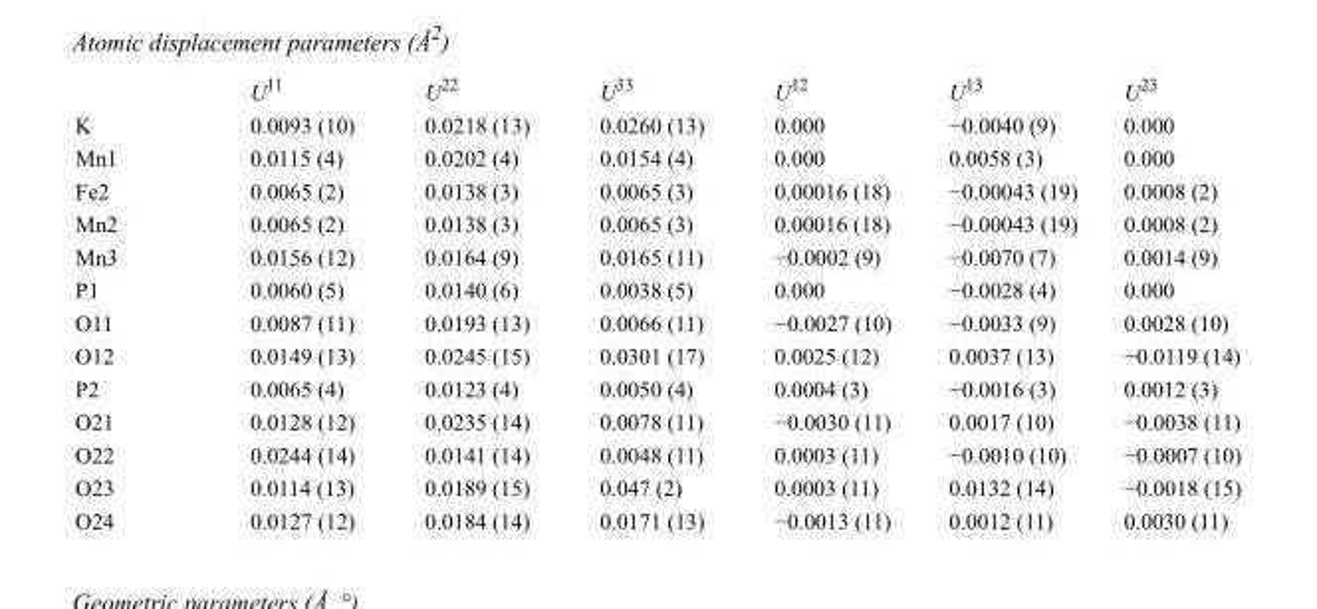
<table><thead><tr><td></td><td>U<sup>11</sup></td><td>U<sup>22</sup></td><td>U<sup>33</sup></td><td>U<sup>12</sup></td><td>U<sup>13</sup></td><td>U<sup>23</sup></td></tr></thead><tbody><tr><td>K</td><td>0.0093 (10)</td><td>0.0218 (13)</td><td>0.0260 (13)</td><td>0.000</td><td>−0.0040 (9)</td><td>0.000</td></tr><tr><td>Mn1</td><td>0.0115 (4)</td><td>0.0202 (4)</td><td>0.0154 (4)</td><td>0.000</td><td>0.0058 (3)</td><td>0.000</td></tr><tr><td>Fe2</td><td>0.0065 (2)</td><td>0.0138 (3)</td><td>0.0065 (3)</td><td>0.00016 (18)</td><td>−0.00043 (19)</td><td>0.0008 (2)</td></tr><tr><td>Mn2</td><td>0.0065 (2)</td><td>0.0138 (3)</td><td>0.0065 (3)</td><td>0.00016 (18)</td><td>−0.00043 (19)</td><td>0.0008 (2)</td></tr><tr><td>Mn3</td><td>0.0156 (12)</td><td>0.0164 (9)</td><td>0.0165 (11)</td><td>−0.0002 (9)</td><td>−0.0070 (7)</td><td>0.0014 (9)</td></tr><tr><td>P1</td><td>0.0060 (5)</td><td>0.0140 (6)</td><td>0.0038 (5)</td><td>0.000</td><td>−0.0028 (4)</td><td>0.000</td></tr><tr><td>O11</td><td>0.0087 (11)</td><td>0.0193 (13)</td><td>0.0066 (11)</td><td>−0.0027 (10)</td><td>−0.0033 (9)</td><td>0.0028 (10)</td></tr><tr><td>O12</td><td>0.0149 (13)</td><td>0.0245 (15)</td><td>0.0301 (17)</td><td>0.0025 (12)</td><td>0.0037 (13)</td><td>−0.0119 (14)</td></tr><tr><td>P2</td><td>0.0065 (4)</td><td>0.0123 (4)</td><td>0.0050 (4)</td><td>0.0004 (3)</td><td>−0.0016 (3)</td><td>0.0012 (3)</td></tr><tr><td>O21</td><td>0.0128 (12)</td><td>0.0235 (14)</td><td>0.0078 (11)</td><td>−0.0030 (11)</td><td>0.0017 (10)</td><td>−0.0038 (11)</td></tr><tr><td>O22</td><td>0.0244 (14)</td><td>0.0141 (14)</td><td>0.0048 (11)</td><td>0.0003 (11)</td><td>−0.0010 (10)</td><td>−0.0007 (10)</td></tr><tr><td>O23</td><td>0.0114 (13)</td><td>0.0189 (15)</td><td>0.047 (2)</td><td>0.0003 (11)</td><td>0.0132 (14)</td><td>−0.0018 (15)</td></tr><tr><td>O24</td><td>0.0127 (12)</td><td>0.0184 (14)</td><td>0.0171 (13)</td><td>−0.0013 (11)</td><td>0.0012 (11)</td><td>0.0030 (11)</td></tr></tbody></table>